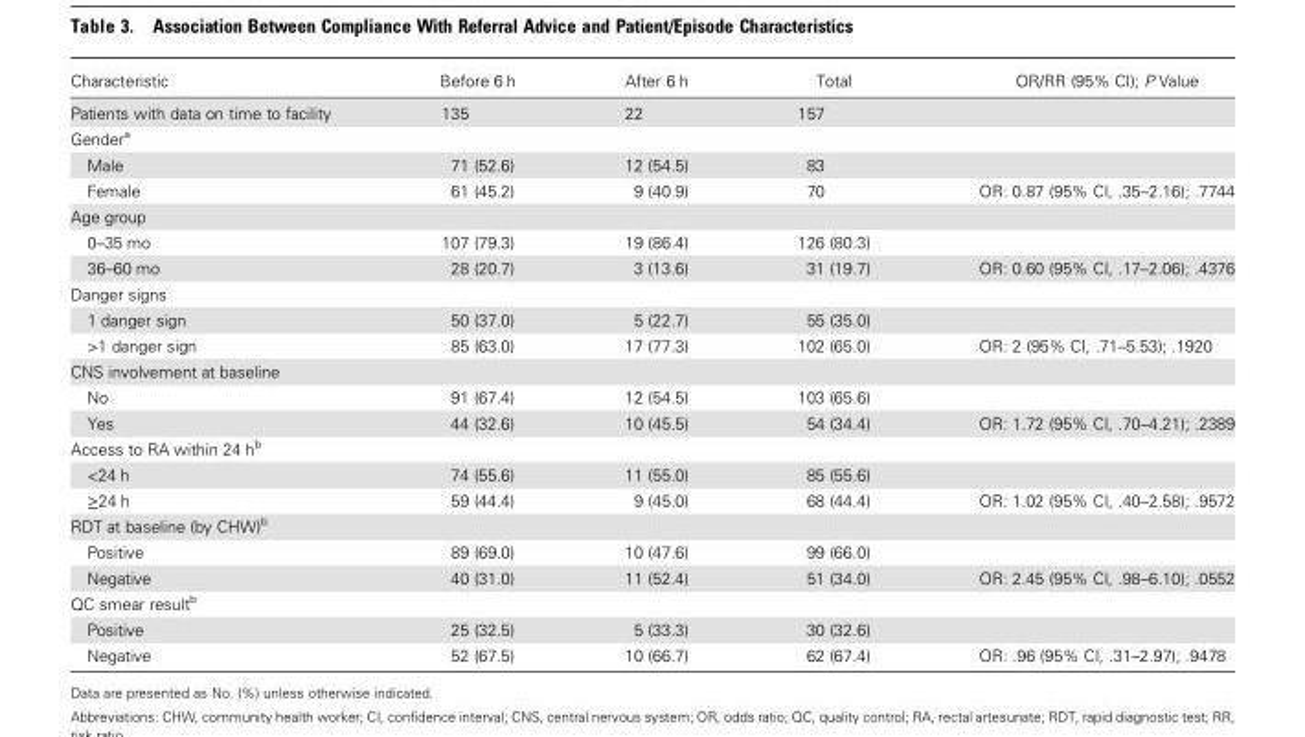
<table><thead><tr><td>Characteristic</td><td>Before 6 h</td><td>After 6 h</td><td>Total</td><td>OR/RR (95% CI); P Value</td></tr></thead><tbody><tr><td>Patients with data on time to facility</td><td>135</td><td>22</td><td>157</td><td></td></tr><tr><td colspan="5">Gender<sup>a</sup></td></tr><tr><td>Male</td><td>71 (52.6)</td><td>12 (54.5)</td><td>83</td><td></td></tr><tr><td>Female</td><td>61 (45.2)</td><td>9 (40.9)</td><td>70</td><td>OR: 0.87 (95% CI, .35–2.16); .7744</td></tr><tr><td colspan="5">Age group</td></tr><tr><td>0–35 mo</td><td>107 (79.3)</td><td>19 (86.4)</td><td>126 (80.3)</td><td></td></tr><tr><td>36–60 mo</td><td>28 (20.7)</td><td>3 (13.6)</td><td>31 (19.7)</td><td>OR: 0.60 (95% CI, .17–2.06); .4376</td></tr><tr><td colspan="5">Danger signs</td></tr><tr><td>1 danger sign</td><td>50 (37.0)</td><td>5 (22.7)</td><td>55 (35.0)</td><td></td></tr><tr><td>&gt;1 danger sign</td><td>85 (63.0)</td><td>17 (77.3)</td><td>102 (65.0)</td><td>OR: 2 (95% CI, .71–5.53); .1920</td></tr><tr><td colspan="5">CNS involvement at baseline</td></tr><tr><td>No</td><td>91 (67.4)</td><td>12 (54.5)</td><td>103 (65.6)</td><td></td></tr><tr><td>Yes</td><td>44 (32.6)</td><td>10 (45.5)</td><td>54 (34.4)</td><td>OR: 1.72 (95% CI, .70–4.21); .2389</td></tr><tr><td colspan="5">Access to RA within 24 h<sup>b</sup></td></tr><tr><td>&lt;24 h</td><td>74 (55.6)</td><td>11 (55.0)</td><td>85 (55.6)</td><td></td></tr><tr><td>≥24 h</td><td>59 (44.4)</td><td>9 (45.0)</td><td>68 (44.4)</td><td>OR: 1.02 (95% CI, .40–2.58); .9572</td></tr><tr><td colspan="5">RDT at baseline (by CHW)<sup>b</sup></td></tr><tr><td>Positive</td><td>89 (69.0)</td><td>10 (47.6)</td><td>99 (66.0)</td><td></td></tr><tr><td>Negative</td><td>40 (31.0)</td><td>11 (52.4)</td><td>51 (34.0)</td><td>OR: 2.45 (95% CI, .98–6.10); .0552</td></tr><tr><td colspan="5">QC smear result<sup>b</sup></td></tr><tr><td>Positive</td><td>25 (32.5)</td><td>5 (33.3)</td><td>30 (32.6)</td><td></td></tr><tr><td>Negative</td><td>52 (67.5)</td><td>10 (66.7)</td><td>62 (67.4)</td><td>OR: .96 (95% CI, .31–2.97); .9478</td></tr></tbody></table>